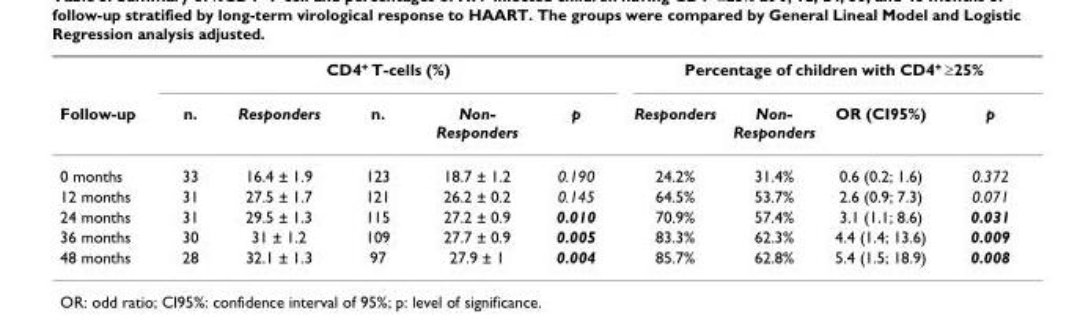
<table><thead><tr><td rowspan="2">Follow-up</td><td colspan="5">CD4<sup>+</sup> T-cells (%)</td><td colspan="4">Percentage of children with CD4<sup>+</sup> ≥25%</td></tr><tr><td>n.</td><td>Responders</td><td>n.</td><td>Non- Responders</td><td>p</td><td>Responders</td><td>Non- Responders</td><td>OR (CI95%)</td><td>p</td></tr></thead><tbody><tr><td>0 months</td><td>33</td><td>16.4 ± 1.9</td><td>123</td><td>18.7 ± 1.2</td><td>0.190</td><td>24.2%</td><td>31.4%</td><td>0.6 (0.2; 1.6)</td><td>0.372</td></tr><tr><td>12 months</td><td>31</td><td>27.5 ± 1.7</td><td>121</td><td>26.2 ± 0.2</td><td>0.145</td><td>64.5%</td><td>53.7%</td><td>2.6 (0.9; 7.3)</td><td>0.071</td></tr><tr><td>24 months</td><td>31</td><td>29.5 ± 1.3</td><td>115</td><td>27.2 ± 0.9</td><td>0.010</td><td>70.9%</td><td>57.4%</td><td>3.1 (1.1; 8.6)</td><td>0.031</td></tr><tr><td>36 months</td><td>30</td><td>31 ± 1.2</td><td>109</td><td>27.7 ± 0.9</td><td>0.005</td><td>83.3%</td><td>62.3%</td><td>4.4 (1.4; 13.6)</td><td>0.009</td></tr><tr><td>48 months</td><td>28</td><td>32.1 ± 1.3</td><td>97</td><td>27.9 ± 1</td><td>0.004</td><td>85.7%</td><td>62.8%</td><td>5.4 (1.5; 18.9)</td><td>0.008</td></tr></tbody></table>